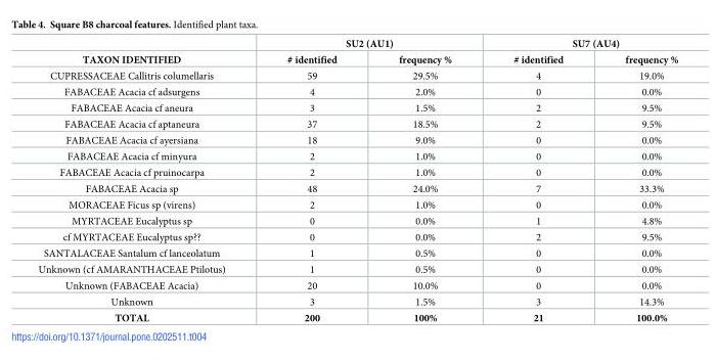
<table><thead><tr><td rowspan="2">TAXON IDENTIFIED</td><td colspan="2">SU2 (AU1)</td><td colspan="2">SU7 (AU4)</td></tr><tr><td># identified</td><td>frequency %</td><td># identified</td><td>frequency %</td></tr></thead><tbody><tr><td>CUPRESSACEAE Callitris columellaris</td><td>59</td><td>29.5%</td><td>4</td><td>19.0%</td></tr><tr><td>FABACEAE Acacia cf adsurgens</td><td>4</td><td>2.0%</td><td>0</td><td>0.0%</td></tr><tr><td>FABACEAE Acacia cf aneura</td><td>3</td><td>1.5%</td><td>2</td><td>9.5%</td></tr><tr><td>FABACEAE Acacia cf aptaneura</td><td>37</td><td>18.5%</td><td>2</td><td>9.5%</td></tr><tr><td>FABACEAE Acacia cf ayersiana</td><td>18</td><td>9.0%</td><td>0</td><td>0.0%</td></tr><tr><td>FABACEAE Acacia cf minyura</td><td>2</td><td>1.0%</td><td>0</td><td>0.0%</td></tr><tr><td>FABACEAE Acacia cf pruinocarpa</td><td>2</td><td>1.0%</td><td>0</td><td>0.0%</td></tr><tr><td>FABACEAE Acacia sp</td><td>48</td><td>24.0%</td><td>7</td><td>33.3%</td></tr><tr><td>MORACEAE Ficus sp (virens)</td><td>2</td><td>1.0%</td><td>0</td><td>0.0%</td></tr><tr><td>MYRTACEAE Eucalyptus sp</td><td>0</td><td>0.0%</td><td>1</td><td>4.8%</td></tr><tr><td>cf MYRTACEAE Eucalyptus sp??</td><td>0</td><td>0.0%</td><td>2</td><td>9.5%</td></tr><tr><td>SANTALACEAE Santalum cf lanceolatum</td><td>1</td><td>0.5%</td><td>0</td><td>0.0%</td></tr><tr><td>Unknown (cf AMARANTHACEAE Ptilotus)</td><td>1</td><td>0.5%</td><td>0</td><td>0.0%</td></tr><tr><td>Unknown (FABACEAE Acacia)</td><td>20</td><td>10.0%</td><td>0</td><td>0.0%</td></tr><tr><td>Unknown</td><td>3</td><td>1.5%</td><td>3</td><td>14.3%</td></tr><tr><td>TOTAL</td><td>200</td><td>100%</td><td>21</td><td>100.0%</td></tr></tbody></table>